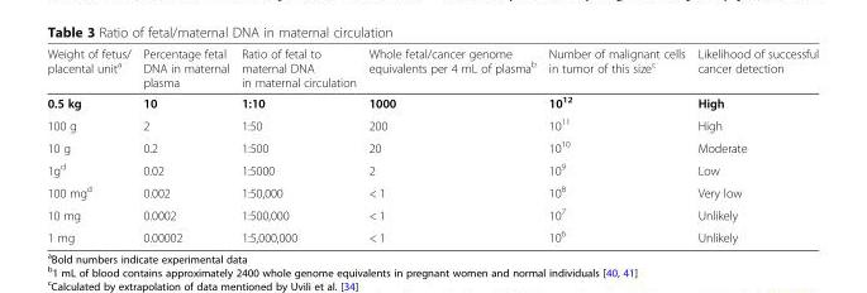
<table><thead><tr><td>Weight of fetus/ placental unit<sup>a</sup></td><td>Percentage fetal DNA in maternal plasma</td><td>Ratio of fetal to maternal DNA in maternal circulation</td><td>Whole fetal/cancer genome equivalents per 4 mL of plasma<sup>b</sup></td><td>Number of malignant cells in tumor of this size<sup>c</sup></td><td>Likelihood of successful cancer detection</td></tr></thead><tbody><tr><td>0.5 kg</td><td>10</td><td>1:10</td><td>1000</td><td>10<sup>12</sup></td><td>High</td></tr><tr><td>100 g</td><td>2</td><td>1:50</td><td>200</td><td>10<sup>11</sup></td><td>High</td></tr><tr><td>10 g</td><td>0.2</td><td>1:500</td><td>20</td><td>10<sup>10</sup></td><td>Moderate</td></tr><tr><td>1g<sup>d</sup></td><td>0.02</td><td>1:5000</td><td>2</td><td>10<sup>9</sup></td><td>Low</td></tr><tr><td>100 mg<sup>d</sup></td><td>0.002</td><td>1:50,000</td><td>&lt; 1</td><td>10<sup>8</sup></td><td>Very low</td></tr><tr><td>10 mg</td><td>0.0002</td><td>1:500,000</td><td>&lt; 1</td><td>10<sup>7</sup></td><td>Unlikely</td></tr><tr><td>1 mg</td><td>0.00002</td><td>1:5,000,000</td><td>&lt; 1</td><td>10<sup>6</sup></td><td>Unlikely</td></tr></tbody></table>